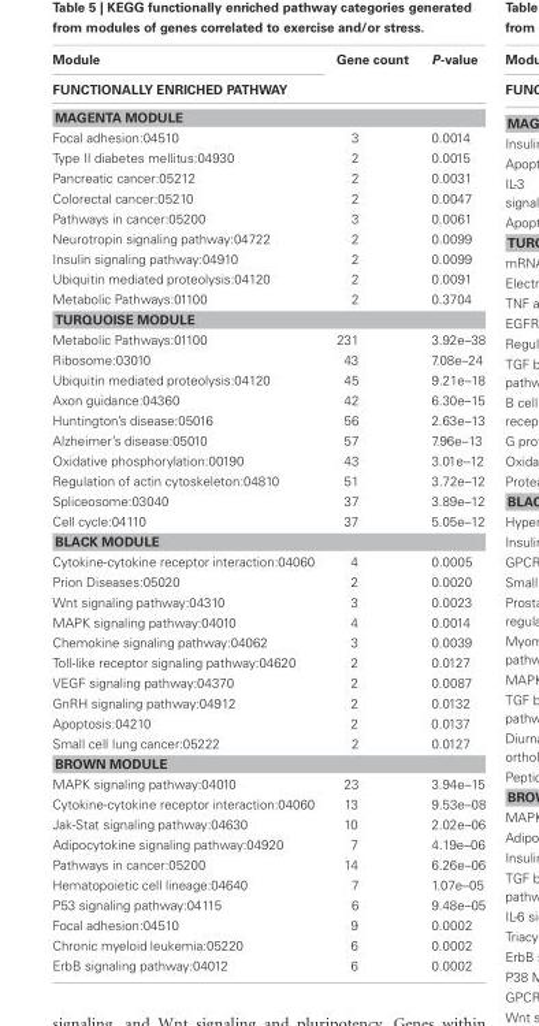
<table><thead><tr><td>Module</td><td>Gene count</td><td>P-value</td></tr><tr><td colspan="3">FUNCTIONALLY ENRICHED PATHWAY</td></tr></thead><tbody><tr><td colspan="3">MAGENTA MODULE</td></tr><tr><td>Focal adhesion:04510</td><td>3</td><td>0.0014</td></tr><tr><td>Type II diabetes mellitus:04930</td><td>2</td><td>0.0015</td></tr><tr><td>Pancreatic cancer:05212</td><td>2</td><td>0.0031</td></tr><tr><td>Colorectal cancer:05210</td><td>2</td><td>0.0047</td></tr><tr><td>Pathways in cancer:05200</td><td>3</td><td>0.0061</td></tr><tr><td>Neurotropin signaling pathway:04722</td><td>2</td><td>0.0099</td></tr><tr><td>Insulin signaling pathway:04910</td><td>2</td><td>0.0099</td></tr><tr><td>Ubiquitin mediated proteolysis:04120</td><td>2</td><td>0.0091</td></tr><tr><td>Metabolic Pathways:01100</td><td>2</td><td>0.3704</td></tr><tr><td colspan="3">TURQUOISE MODULE</td></tr><tr><td>Metabolic Pathways:01100</td><td>231</td><td>3.92e–38</td></tr><tr><td>Ribosome:03010</td><td>43</td><td>7.08e–24</td></tr><tr><td>Ubiquitin mediated proteolysis:04120</td><td>45</td><td>9.21e–18</td></tr><tr><td>Axon guidance:04360</td><td>42</td><td>6.30e–15</td></tr><tr><td>Huntington’s disease:05016</td><td>56</td><td>2.63e–13</td></tr><tr><td>Alzheimer’s disease:05010</td><td>57</td><td>7.96e–13</td></tr><tr><td>Oxidative phosphorylation:00190</td><td>43</td><td>3.01e–12</td></tr><tr><td>Regulation of actin cytoskeleton:04810</td><td>51</td><td>3.72e–12</td></tr><tr><td>Spliceosome:03040</td><td>37</td><td>3.89e–12</td></tr><tr><td>Cell cycle:04110</td><td>37</td><td>5.05e–12</td></tr><tr><td colspan="3">BLACK MODULE</td></tr><tr><td>Cytokine-cytokine receptor interaction:04060</td><td>4</td><td>0.0005</td></tr><tr><td>Prion Diseases:05020</td><td>2</td><td>0.0020</td></tr><tr><td>Wnt signaling pathway:04310</td><td>3</td><td>0.0023</td></tr><tr><td>MAPK signaling pathway:04010</td><td>4</td><td>0.0014</td></tr><tr><td>Chemokine signaling pathway:04062</td><td>3</td><td>0.0039</td></tr><tr><td>Toll-like receptor signaling pathway:04620</td><td>2</td><td>0.0127</td></tr><tr><td>VEGF signaling pathway:04370</td><td>2</td><td>0.0087</td></tr><tr><td>GnRH signaling pathway:04912</td><td>2</td><td>0.0132</td></tr><tr><td>Apoptosis:04210</td><td>2</td><td>0.0137</td></tr><tr><td>Small cell lung cancer:05222</td><td>2</td><td>0.0127</td></tr><tr><td colspan="3">BROWN MODULE</td></tr><tr><td>MAPK signaling pathway:04010</td><td>23</td><td>3.94e–15</td></tr><tr><td>Cytokine-cytokine receptor interaction:04060</td><td>13</td><td>9.53e–08</td></tr><tr><td>Jak-Stat signaling pathway:04630</td><td>10</td><td>2.02e–06</td></tr><tr><td>Adipocytokine signaling pathway:04920</td><td>7</td><td>4.19e–06</td></tr><tr><td>Pathways in cancer:05200</td><td>14</td><td>6.26e–06</td></tr><tr><td>Hematopoietic cell lineage:04640</td><td>7</td><td>1.07e–05</td></tr><tr><td>P53 signaling pathway:04115</td><td>6</td><td>9.48e–05</td></tr><tr><td>Focal adhesion:04510</td><td>9</td><td>0.0002</td></tr><tr><td>Chronic myeloid leukemia:05220</td><td>6</td><td>0.0002</td></tr><tr><td>ErbB signaling pathway:04012</td><td>6</td><td>0.0002</td></tr></tbody></table>